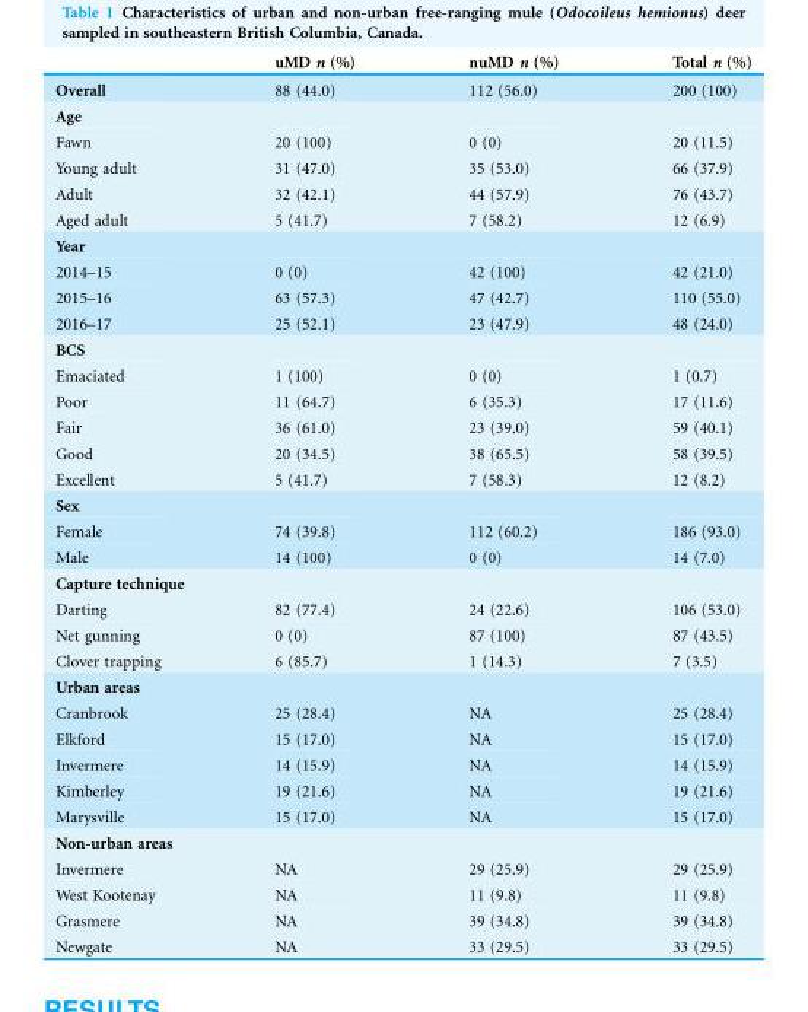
<table><thead><tr><td></td><td>uMD n (%)</td><td>nuMD n (%)</td><td>Total n (%)</td></tr></thead><tbody><tr><td>Overall</td><td>88 (44.0)</td><td>112 (56.0)</td><td>200 (100)</td></tr><tr><td colspan="4">Age</td></tr><tr><td>Fawn</td><td>20 (100)</td><td>0 (0)</td><td>20 (11.5)</td></tr><tr><td>Young adult</td><td>31 (47.0)</td><td>35 (53.0)</td><td>66 (37.9)</td></tr><tr><td>Adult</td><td>32 (42.1)</td><td>44 (57.9)</td><td>76 (43.7)</td></tr><tr><td>Aged adult</td><td>5 (41.7)</td><td>7 (58.2)</td><td>12 (6.9)</td></tr><tr><td colspan="4">Year</td></tr><tr><td>2014–15</td><td>0 (0)</td><td>42 (100)</td><td>42 (21.0)</td></tr><tr><td>2015–16</td><td>63 (57.3)</td><td>47 (42.7)</td><td>110 (55.0)</td></tr><tr><td>2016–17</td><td>25 (52.1)</td><td>23 (47.9)</td><td>48 (24.0)</td></tr><tr><td colspan="4">BCS</td></tr><tr><td>Emaciated</td><td>1 (100)</td><td>0 (0)</td><td>1 (0.7)</td></tr><tr><td>Poor</td><td>11 (64.7)</td><td>6 (35.3)</td><td>17 (11.6)</td></tr><tr><td>Fair</td><td>36 (61.0)</td><td>23 (39.0)</td><td>59 (40.1)</td></tr><tr><td>Good</td><td>20 (34.5)</td><td>38 (65.5)</td><td>58 (39.5)</td></tr><tr><td>Excellent</td><td>5 (41.7)</td><td>7 (58.3)</td><td>12 (8.2)</td></tr><tr><td colspan="4">Sex</td></tr><tr><td>Female</td><td>74 (39.8)</td><td>112 (60.2)</td><td>186 (93.0)</td></tr><tr><td>Male</td><td>14 (100)</td><td>0 (0)</td><td>14 (7.0)</td></tr><tr><td colspan="4">Capture technique</td></tr><tr><td>Darting</td><td>82 (77.4)</td><td>24 (22.6)</td><td>106 (53.0)</td></tr><tr><td>Net gunning</td><td>0 (0)</td><td>87 (100)</td><td>87 (43.5)</td></tr><tr><td>Clover trapping</td><td>6 (85.7)</td><td>1 (14.3)</td><td>7 (3.5)</td></tr><tr><td colspan="4">Urban areas</td></tr><tr><td>Cranbrook</td><td>25 (28.4)</td><td>NA</td><td>25 (28.4)</td></tr><tr><td>Elkford</td><td>15 (17.0)</td><td>NA</td><td>15 (17.0)</td></tr><tr><td>Invermere</td><td>14 (15.9)</td><td>NA</td><td>14 (15.9)</td></tr><tr><td>Kimberley</td><td>19 (21.6)</td><td>NA</td><td>19 (21.6)</td></tr><tr><td>Marysville</td><td>15 (17.0)</td><td>NA</td><td>15 (17.0)</td></tr><tr><td colspan="4">Non-urban areas</td></tr><tr><td>Invermere</td><td>NA</td><td>29 (25.9)</td><td>29 (25.9)</td></tr><tr><td>West Kootenay</td><td>NA</td><td>11 (9.8)</td><td>11 (9.8)</td></tr><tr><td>Grasmere</td><td>NA</td><td>39 (34.8)</td><td>39 (34.8)</td></tr><tr><td>Newgate</td><td>NA</td><td>33 (29.5)</td><td>33 (29.5)</td></tr></tbody></table>